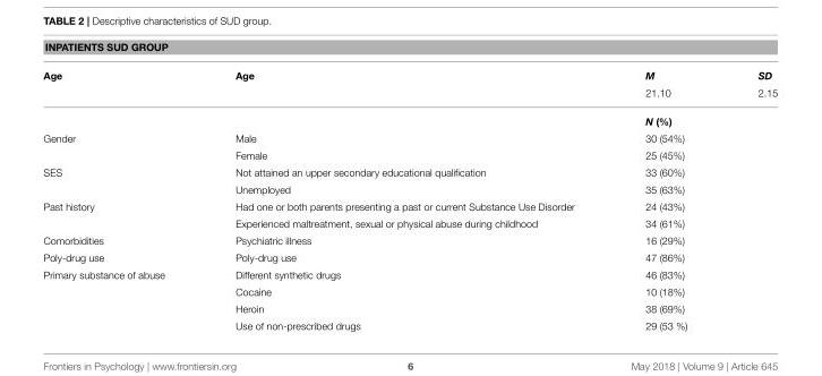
<table><thead><tr><td colspan="4">INPATIENTS SUD GROUP</td></tr><tr><td>Age</td><td>Age</td><td>M</td><td>SD</td></tr></thead><tbody><tr><td></td><td></td><td>21.10</td><td>2.15</td></tr><tr><td></td><td></td><td>N (%)</td><td></td></tr><tr><td rowspan="2">Gender</td><td>Male</td><td>30 (54%)</td><td></td></tr><tr><td>Female</td><td>25 (45%)</td><td></td></tr><tr><td rowspan="2">SES</td><td>Not attained an upper secondary educational qualification</td><td>33 (60%)</td><td></td></tr><tr><td>Unemployed</td><td>35 (63%)</td><td></td></tr><tr><td rowspan="2">Past history</td><td>Had one or both parents presenting a past or current Substance Use Disorder</td><td>24 (43%)</td><td></td></tr><tr><td>Experienced maltreatment, sexual or physical abuse during childhood</td><td>34 (61%)</td><td></td></tr><tr><td>Comorbidities</td><td>Psychiatric illness</td><td>16 (29%)</td><td></td></tr><tr><td>Poly-drug use</td><td>Poly-drug use</td><td>47 (86%)</td><td></td></tr><tr><td rowspan="4">Primary substance of abuse</td><td>Different synthetic drugs</td><td>46 (83%)</td><td></td></tr><tr><td>Cocaine</td><td>10 (18%)</td><td></td></tr><tr><td>Heroin</td><td>38 (69%)</td><td></td></tr><tr><td>Use of non-prescribed drugs</td><td>29 (53 %)</td><td></td></tr></tbody></table>